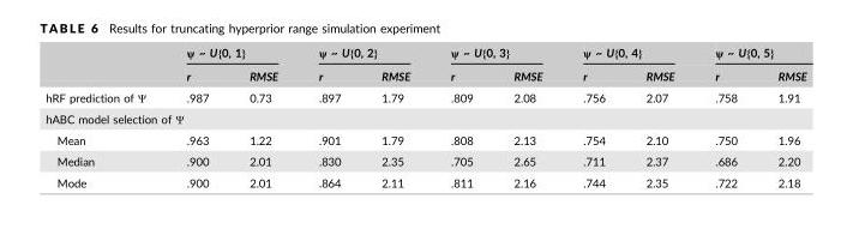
<table><thead><tr><td rowspan="2"></td><td colspan="2">ѱ ~ U{0, 1}</td><td colspan="2">ѱ ~ U{0, 2}</td><td colspan="2">ѱ ~ U{0, 3}</td><td colspan="2">ѱ ~ U{0, 4}</td><td colspan="2">ѱ ~ U{0, 5}</td></tr><tr><td>r</td><td>RMSE</td><td>r</td><td>RMSE</td><td>r</td><td>RMSE</td><td>r</td><td>RMSE</td><td>r</td><td>RMSE</td></tr></thead><tbody><tr><td>hRF prediction of Ψ</td><td>.987</td><td>0.73</td><td>.897</td><td>1.79</td><td>.809</td><td>2.08</td><td>.756</td><td>2.07</td><td>.758</td><td>1.91</td></tr><tr><td colspan="11">hABC model selection of Ψ</td></tr><tr><td>Mean</td><td>.963</td><td>1.22</td><td>.901</td><td>1.79</td><td>.808</td><td>2.13</td><td>.754</td><td>2.10</td><td>.750</td><td>1.96</td></tr><tr><td>Median</td><td>.900</td><td>2.01</td><td>.830</td><td>2.35</td><td>.705</td><td>2.65</td><td>.711</td><td>2.37</td><td>.686</td><td>2.20</td></tr><tr><td>Mode</td><td>.900</td><td>2.01</td><td>.864</td><td>2.11</td><td>.811</td><td>2.16</td><td>.744</td><td>2.35</td><td>.722</td><td>2.18</td></tr></tbody></table>